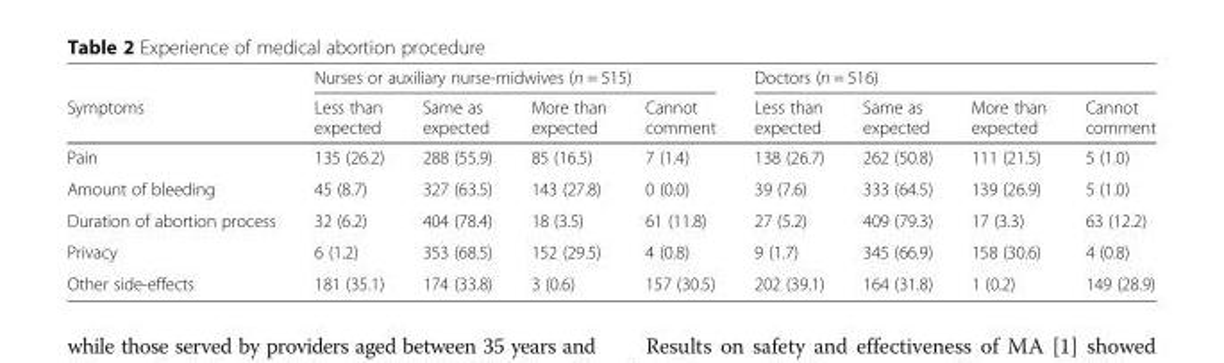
<table><thead><tr><td rowspan="2">Symptoms</td><td colspan="4">Nurses or auxiliary nurse-midwives (n = 515)</td><td colspan="4">Doctors (n = 516)</td></tr><tr><td>Less than expected</td><td>Same as expected</td><td>More than expected</td><td>Cannot comment</td><td>Less than expected</td><td>Same as expected</td><td>More than expected</td><td>Cannot comment</td></tr></thead><tbody><tr><td>Pain</td><td>135 (26.2)</td><td>288 (55.9)</td><td>85 (16.5)</td><td>7 (1.4)</td><td>138 (26.7)</td><td>262 (50.8)</td><td>111 (21.5)</td><td>5 (1.0)</td></tr><tr><td>Amount of bleeding</td><td>45 (8.7)</td><td>327 (63.5)</td><td>143 (27.8)</td><td>0 (0.0)</td><td>39 (7.6)</td><td>333 (64.5)</td><td>139 (26.9)</td><td>5 (1.0)</td></tr><tr><td>Duration of abortion process</td><td>32 (6.2)</td><td>404 (78.4)</td><td>18 (3.5)</td><td>61 (11.8)</td><td>27 (5.2)</td><td>409 (79.3)</td><td>17 (3.3)</td><td>63 (12.2)</td></tr><tr><td>Privacy</td><td>6 (1.2)</td><td>353 (68.5)</td><td>152 (29.5)</td><td>4 (0.8)</td><td>9 (1.7)</td><td>345 (66.9)</td><td>158 (30.6)</td><td>4 (0.8)</td></tr><tr><td>Other side-effects</td><td>181 (35.1)</td><td>174 (33.8)</td><td>3 (0.6)</td><td>157 (30.5)</td><td>202 (39.1)</td><td>164 (31.8)</td><td>1 (0.2)</td><td>149 (28.9)</td></tr></tbody></table>